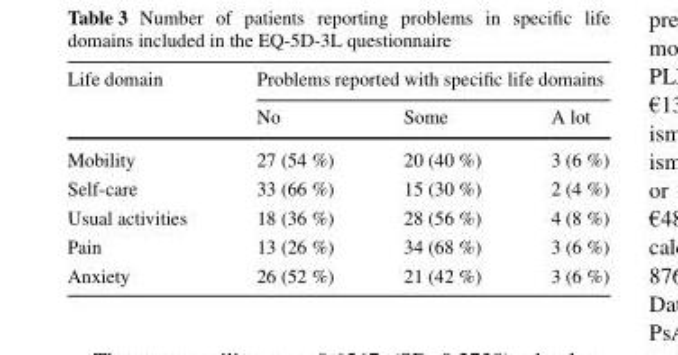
<table><thead><tr><td rowspan="2">Life domain</td><td colspan="3">Problems reported with specific life domains</td></tr><tr><td>No</td><td>Some</td><td>A lot</td></tr></thead><tbody><tr><td>Mobility</td><td>27 (54 %)</td><td>20 (40 %)</td><td>3 (6 %)</td></tr><tr><td>Self-care</td><td>33 (66 %)</td><td>15 (30 %)</td><td>2 (4 %)</td></tr><tr><td>Usual activities</td><td>18 (36 %)</td><td>28 (56 %)</td><td>4 (8 %)</td></tr><tr><td>Pain</td><td>13 (26 %)</td><td>34 (68 %)</td><td>3 (6 %)</td></tr><tr><td>Anxiety</td><td>26 (52 %)</td><td>21 (42 %)</td><td>3 (6 %)</td></tr></tbody></table>